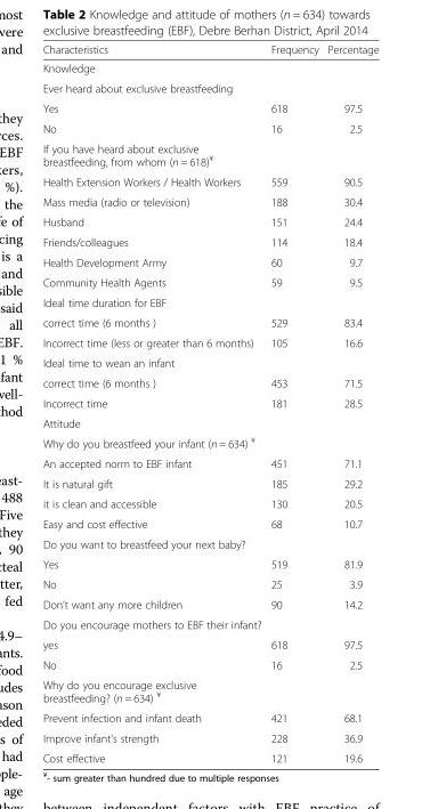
<table><thead><tr><td>Characteristics</td><td>Frequency</td><td>Percentage</td></tr></thead><tbody><tr><td colspan="3">Knowledge</td></tr><tr><td colspan="3">Ever heard about exclusive breastfeeding</td></tr><tr><td>Yes</td><td>618</td><td>97.5</td></tr><tr><td>No</td><td>16</td><td>2.5</td></tr><tr><td colspan="3">If you have heard about exclusive breastfeeding, from whom (n = 618)<sup>¥</sup></td></tr><tr><td>Health Extension Workers / Health Workers</td><td>559</td><td>90.5</td></tr><tr><td>Mass media (radio or television)</td><td>188</td><td>30.4</td></tr><tr><td>Husband</td><td>151</td><td>24.4</td></tr><tr><td>Friends/colleagues</td><td>114</td><td>18.4</td></tr><tr><td>Health Development Army</td><td>60</td><td>9.7</td></tr><tr><td>Community Health Agents</td><td>59</td><td>9.5</td></tr><tr><td colspan="3">Ideal time duration for EBF</td></tr><tr><td>correct time (6 months )</td><td>529</td><td>83.4</td></tr><tr><td>Incorrect time (less or greater than 6 months)</td><td>105</td><td>16.6</td></tr><tr><td colspan="3">Ideal time to wean an infant</td></tr><tr><td>correct time (6 months )</td><td>453</td><td>71.5</td></tr><tr><td>Incorrect time</td><td>181</td><td>28.5</td></tr><tr><td colspan="3">Attitude</td></tr><tr><td colspan="3">Why do you breastfeed your infant (n = 634) <sup>¥</sup></td></tr><tr><td>An accepted norm to EBF infant</td><td>451</td><td>71.1</td></tr><tr><td>It is natural gift</td><td>185</td><td>29.2</td></tr><tr><td>it is clean and accessible</td><td>130</td><td>20.5</td></tr><tr><td>Easy and cost effective</td><td>68</td><td>10.7</td></tr><tr><td colspan="3">Do you want to breastfeed your next baby?</td></tr><tr><td>Yes</td><td>519</td><td>81.9</td></tr><tr><td>No</td><td>25</td><td>3.9</td></tr><tr><td>Don’t want any more children</td><td>90</td><td>14.2</td></tr><tr><td colspan="3">Do you encourage mothers to EBF their infant?</td></tr><tr><td>yes</td><td>618</td><td>97.5</td></tr><tr><td>No</td><td>16</td><td>2.5</td></tr><tr><td colspan="3">Why do you encourage exclusive breastfeeding? (n = 634) <sup>¥</sup></td></tr><tr><td>Prevent infection and infant death</td><td>421</td><td>68.1</td></tr><tr><td>Improve infant&#x27;s strength</td><td>228</td><td>36.9</td></tr><tr><td>Cost effective</td><td>121</td><td>19.6</td></tr></tbody></table>